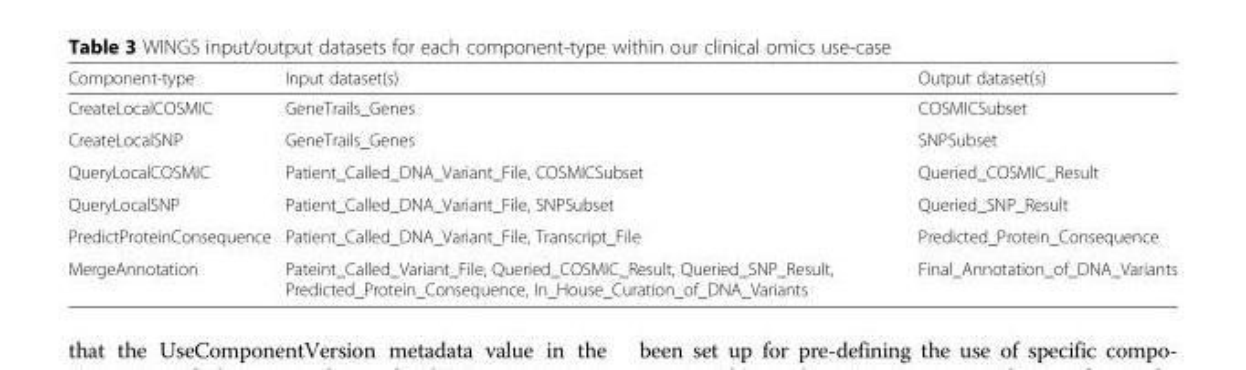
<table><thead><tr><td>Component-type</td><td>Input dataset(s)</td><td>Output dataset(s)</td></tr></thead><tbody><tr><td>CreateLocalCOSMIC</td><td>GeneTrails_Genes</td><td>COSMICSubset</td></tr><tr><td>CreateLocalSNP</td><td>GeneTrails_Genes</td><td>SNPSubset</td></tr><tr><td>QueryLocalCOSMIC</td><td>Patient_Called_DNA_Variant_File, COSMICSubset</td><td>Queried_COSMIC_Result</td></tr><tr><td>QueryLocalSNP</td><td>Patient_Called_DNA_Variant_File, SNPSubset</td><td>Queried_SNP_Result</td></tr><tr><td>PredictProteinConsequence</td><td>Patient_Called_DNA_Variant_File, Transcript_File</td><td>Predicted_Protein_Consequence</td></tr><tr><td>MergeAnnotation</td><td>Pateint_Called_Variant_File, Queried_COSMIC_Result, Queried_SNP_Result, Predicted_Protein_Consequence, In_House_Curation_of_DNA_Variants</td><td>Final_Annotation_of_DNA_Variants</td></tr></tbody></table>